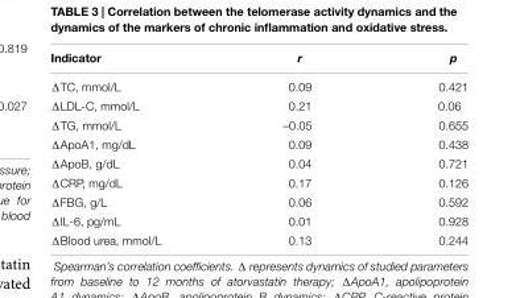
<table><thead><tr><td>Indicator</td><td>r</td><td>p</td></tr></thead><tbody><tr><td>ΔTC, mmol/L</td><td>0.09</td><td>0.421</td></tr><tr><td>ΔLDL-C, mmol/L</td><td>0.21</td><td>0.06</td></tr><tr><td>ΔTG, mmol/L</td><td>–0.05</td><td>0.655</td></tr><tr><td>ΔApoA1, mg/dL</td><td>0.09</td><td>0.438</td></tr><tr><td>ΔApoB, g/dL</td><td>0.04</td><td>0.721</td></tr><tr><td>ΔCRP, mg/dL</td><td>0.17</td><td>0.126</td></tr><tr><td>ΔFBG, g/L</td><td>0.06</td><td>0.592</td></tr><tr><td>ΔIL-6, pg/mL</td><td>0.01</td><td>0.928</td></tr><tr><td>ΔBlood urea, mmol/L</td><td>0.13</td><td>0.244</td></tr></tbody></table>